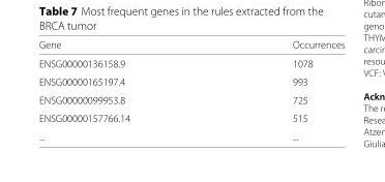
<table><thead><tr><td>Gene</td><td>Occurrences</td></tr></thead><tbody><tr><td>ENSG00000136158.9</td><td>1078</td></tr><tr><td>ENSG00000165197.4</td><td>993</td></tr><tr><td>ENSG00000099953.8</td><td>725</td></tr><tr><td>ENSG00000157766.14</td><td>515</td></tr><tr><td>...</td><td>...</td></tr></tbody></table>